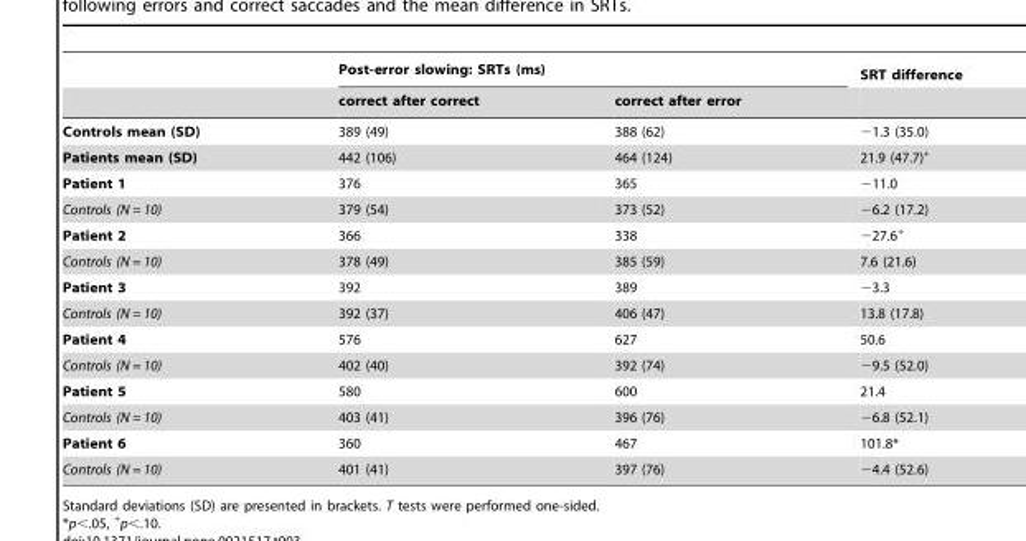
<table><thead><tr><td rowspan="2"></td><td colspan="2">Post-error slowing: SRTs (ms)</td><td rowspan="2">SRT difference</td></tr><tr><td>correct after correct</td><td>correct after error</td></tr></thead><tbody><tr><td>Controls mean (SD)</td><td>389 (49)</td><td>388 (62)</td><td>−1.3 (35.0)</td></tr><tr><td>Patients mean (SD)</td><td>442 (106)</td><td>464 (124)</td><td>21.9 (47.7)<sup>+</sup></td></tr><tr><td>Patient 1</td><td>376</td><td>365</td><td>−11.0</td></tr><tr><td>Controls (N = 10)</td><td>379 (54)</td><td>373 (52)</td><td>−6.2 (17.2)</td></tr><tr><td>Patient 2</td><td>366</td><td>338</td><td>−27.6<sup>+</sup></td></tr><tr><td>Controls (N = 10)</td><td>378 (49)</td><td>385 (59)</td><td>7.6 (21.6)</td></tr><tr><td>Patient 3</td><td>392</td><td>389</td><td>−3.3</td></tr><tr><td>Controls (N = 10)</td><td>392 (37)</td><td>406 (47)</td><td>13.8 (17.8)</td></tr><tr><td>Patient 4</td><td>576</td><td>627</td><td>50.6</td></tr><tr><td>Controls (N = 10)</td><td>402 (40)</td><td>392 (74)</td><td>−9.5 (52.0)</td></tr><tr><td>Patient 5</td><td>580</td><td>600</td><td>21.4</td></tr><tr><td>Controls (N = 10)</td><td>403 (41)</td><td>396 (76)</td><td>−6.8 (52.1)</td></tr><tr><td>Patient 6</td><td>360</td><td>467</td><td>101.8*</td></tr><tr><td>Controls (N = 10)</td><td>401 (41)</td><td>397 (76)</td><td>−4.4 (52.6)</td></tr></tbody></table>